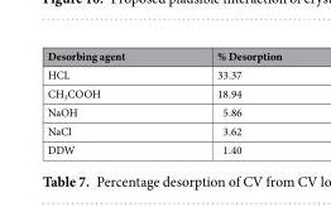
<table><thead><tr><td>Desorbing agent</td><td>% Desorption</td></tr></thead><tbody><tr><td>HCL</td><td>33.37</td></tr><tr><td>CH<sub>3</sub>COOH</td><td>18.94</td></tr><tr><td>NaOH</td><td>5.86</td></tr><tr><td>NaCl</td><td>3.62</td></tr><tr><td>DDW</td><td>1.40</td></tr></tbody></table>